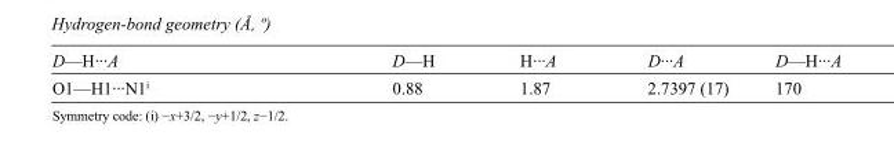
<table><tbody><tr><td>D—H···A</td><td>D—H</td><td>H···A</td><td>D···A</td><td>D—H···A</td></tr><tr><td>O1—H1···N1<sup>i</sup></td><td>0.88</td><td>1.87</td><td>2.7397 (17)</td><td>170</td></tr></tbody></table>